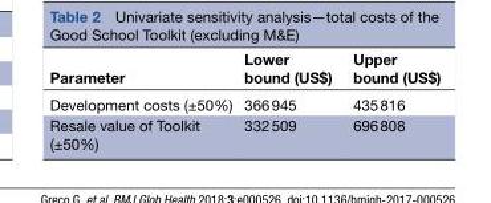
<table><thead><tr><td>Parameter</td><td>Lower bound (US$)</td><td>Upper bound (US$)</td></tr></thead><tbody><tr><td>Development costs (±50%)</td><td>366 945</td><td>435 816</td></tr><tr><td>Resale value of Toolkit (±50%)</td><td>332 509</td><td>696 808</td></tr></tbody></table>